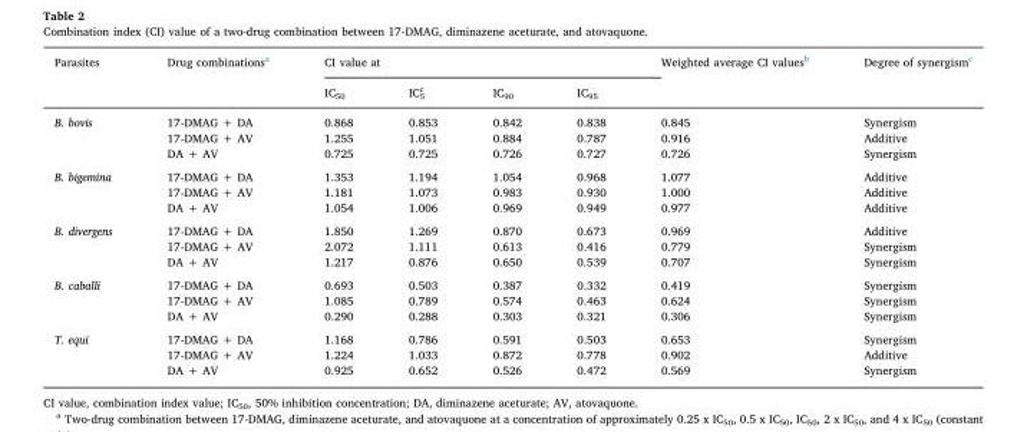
<table><thead><tr><td rowspan="2">Parasites</td><td rowspan="2">Drug combinations<sup>a</sup></td><td colspan="4">CI value at</td><td rowspan="2">Weighted average CI values<sup>b</sup></td><td rowspan="2">Degree of synergism<sup>c</sup></td></tr><tr><td>IC<sub>50</sub></td><td>IC<sup>c</sup> <sub>5</sub></td><td>IC<sub>90</sub></td><td>IC<sub>95</sub></td></tr></thead><tbody><tr><td rowspan="3">B. bovis</td><td>17-DMAG + DA</td><td>0.868</td><td>0.853</td><td>0.842</td><td>0.838</td><td>0.845</td><td>Synergism</td></tr><tr><td>17-DMAG + AV</td><td>1.255</td><td>1.051</td><td>0.884</td><td>0.787</td><td>0.916</td><td>Additive</td></tr><tr><td>DA + AV</td><td>0.725</td><td>0.725</td><td>0.726</td><td>0.727</td><td>0.726</td><td>Synergism</td></tr><tr><td rowspan="3">B. bigemina</td><td>17-DMAG + DA</td><td>1.353</td><td>1.194</td><td>1.054</td><td>0.968</td><td>1.077</td><td>Additive</td></tr><tr><td>17-DMAG + AV</td><td>1.181</td><td>1.073</td><td>0.983</td><td>0.930</td><td>1.000</td><td>Additive</td></tr><tr><td>DA + AV</td><td>1.054</td><td>1.006</td><td>0.969</td><td>0.949</td><td>0.977</td><td>Additive</td></tr><tr><td rowspan="3">B. divergens</td><td>17-DMAG + DA</td><td>1.850</td><td>1.269</td><td>0.870</td><td>0.673</td><td>0.969</td><td>Additive</td></tr><tr><td>17-DMAG + AV</td><td>2.072</td><td>1.111</td><td>0.613</td><td>0.416</td><td>0.779</td><td>Synergism</td></tr><tr><td>DA + AV</td><td>1.217</td><td>0.876</td><td>0.650</td><td>0.539</td><td>0.707</td><td>Synergism</td></tr><tr><td rowspan="3">B. caballi</td><td>17-DMAG + DA</td><td>0.693</td><td>0.503</td><td>0.387</td><td>0.332</td><td>0.419</td><td>Synergism</td></tr><tr><td>17-DMAG + AV</td><td>1.085</td><td>0.789</td><td>0.574</td><td>0.463</td><td>0.624</td><td>Synergism</td></tr><tr><td>DA + AV</td><td>0.290</td><td>0.288</td><td>0.303</td><td>0.321</td><td>0.306</td><td>Synergism</td></tr><tr><td rowspan="3">T. equi</td><td>17-DMAG + DA</td><td>1.168</td><td>0.786</td><td>0.591</td><td>0.503</td><td>0.653</td><td>Synergism</td></tr><tr><td>17-DMAG + AV</td><td>1.224</td><td>1.033</td><td>0.872</td><td>0.778</td><td>0.902</td><td>Additive</td></tr><tr><td>DA + AV</td><td>0.925</td><td>0.652</td><td>0.526</td><td>0.472</td><td>0.569</td><td>Synergism</td></tr></tbody></table>